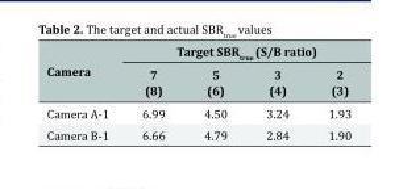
<table><thead><tr><td rowspan="2">Camera</td><td colspan="4">Target SBR<sub>true</sub> (S/B ratio)</td></tr><tr><td>7 (8)</td><td>5 (6)</td><td>3 (4)</td><td>2 (3)</td></tr></thead><tbody><tr><td>Camera A-1</td><td>6.99</td><td>4.50</td><td>3.24</td><td>1.93</td></tr><tr><td>Camera B-1</td><td>6.66</td><td>4.79</td><td>2.84</td><td>1.90</td></tr></tbody></table>